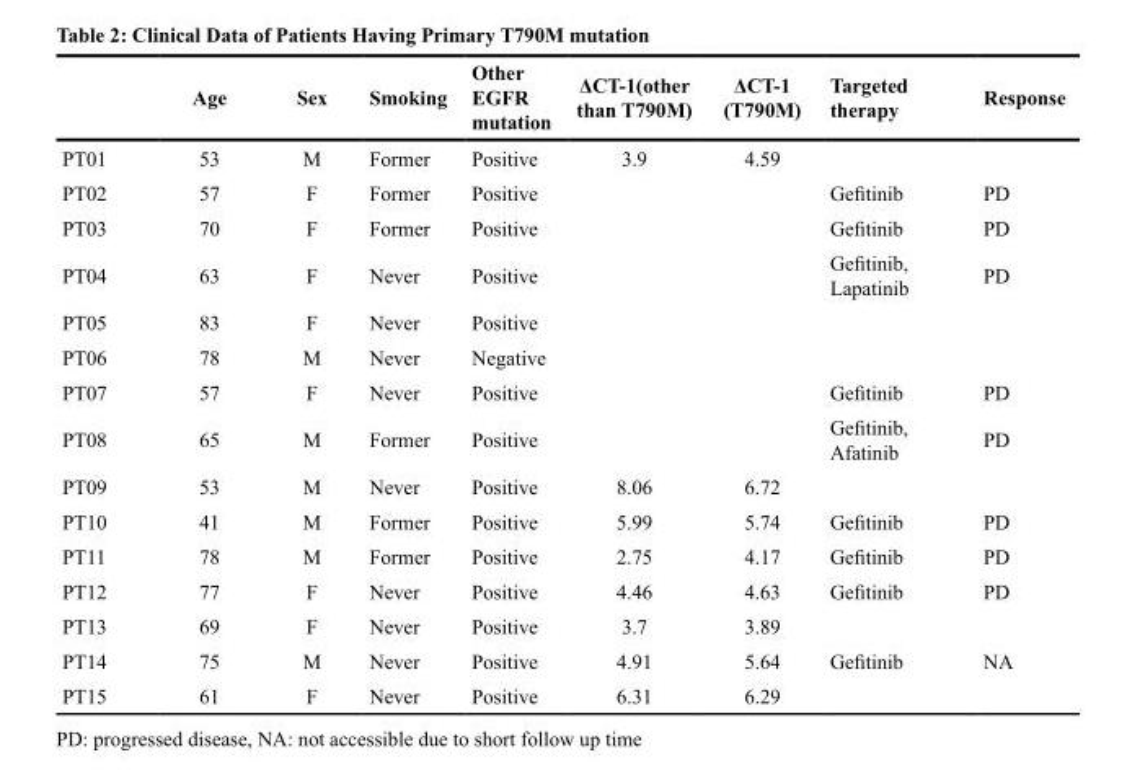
<table><thead><tr><td></td><td>Age</td><td>Sex</td><td>Smoking</td><td>Other EGFR mutation</td><td>ΔCT-1(other than T790M)</td><td>ΔCT-1 (T790M)</td><td>Targeted therapy</td><td>Response</td></tr></thead><tbody><tr><td>PT01</td><td>53</td><td>M</td><td>Former</td><td>Positive</td><td>3.9</td><td>4.59</td><td></td><td></td></tr><tr><td>PT02</td><td>57</td><td>F</td><td>Former</td><td>Positive</td><td></td><td></td><td>Gefitinib</td><td>PD</td></tr><tr><td>PT03</td><td>70</td><td>F</td><td>Former</td><td>Positive</td><td></td><td></td><td>Gefitinib</td><td>PD</td></tr><tr><td>PT04</td><td>63</td><td>F</td><td>Never</td><td>Positive</td><td></td><td></td><td>Gefitinib, Lapatinib</td><td>PD</td></tr><tr><td>PT05</td><td>83</td><td>F</td><td>Never</td><td>Positive</td><td></td><td></td><td></td><td></td></tr><tr><td>PT06</td><td>78</td><td>M</td><td>Never</td><td>Negative</td><td></td><td></td><td></td><td></td></tr><tr><td>PT07</td><td>57</td><td>F</td><td>Never</td><td>Positive</td><td></td><td></td><td>Gefitinib</td><td>PD</td></tr><tr><td>PT08</td><td>65</td><td>M</td><td>Former</td><td>Positive</td><td></td><td></td><td>Gefitinib, Afatinib</td><td>PD</td></tr><tr><td>PT09</td><td>53</td><td>M</td><td>Never</td><td>Positive</td><td>8.06</td><td>6.72</td><td></td><td></td></tr><tr><td>PT10</td><td>41</td><td>M</td><td>Former</td><td>Positive</td><td>5.99</td><td>5.74</td><td>Gefitinib</td><td>PD</td></tr><tr><td>PT11</td><td>78</td><td>M</td><td>Former</td><td>Positive</td><td>2.75</td><td>4.17</td><td>Gefitinib</td><td>PD</td></tr><tr><td>PT12</td><td>77</td><td>F</td><td>Never</td><td>Positive</td><td>4.46</td><td>4.63</td><td>Gefitinib</td><td>PD</td></tr><tr><td>PT13</td><td>69</td><td>F</td><td>Never</td><td>Positive</td><td>3.7</td><td>3.89</td><td></td><td></td></tr><tr><td>PT14</td><td>75</td><td>M</td><td>Never</td><td>Positive</td><td>4.91</td><td>5.64</td><td>Gefitinib</td><td>NA</td></tr><tr><td>PT15</td><td>61</td><td>F</td><td>Never</td><td>Positive</td><td>6.31</td><td>6.29</td><td></td><td></td></tr></tbody></table>